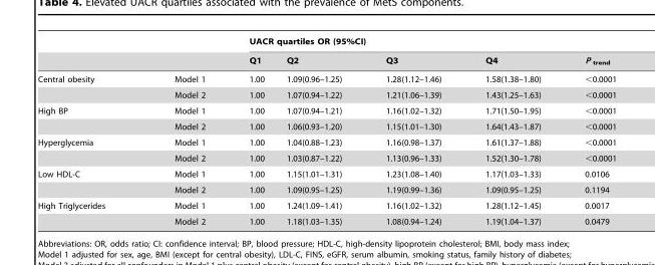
<table><thead><tr><td rowspan="2"></td><td rowspan="2"></td><td colspan="5">UACR quartiles OR (95%CI)</td></tr><tr><td>Q1</td><td>Q2</td><td>Q3</td><td>Q4</td><td>P <sub>trend</sub></td></tr></thead><tbody><tr><td rowspan="2">Central obesity</td><td>Model 1</td><td>1.00</td><td>1.09(0.96–1.25)</td><td>1.28(1.12–1.46)</td><td>1.58(1.38–1.80)</td><td>&lt;0.0001</td></tr><tr><td>Model 2</td><td>1.00</td><td>1.07(0.94–1.22)</td><td>1.21(1.06–1.39)</td><td>1.43(1.25–1.63)</td><td>&lt;0.0001</td></tr><tr><td rowspan="2">High BP</td><td>Model 1</td><td>1.00</td><td>1.07(0.94–1.21)</td><td>1.16(1.02–1.32)</td><td>1.71(1.50–1.95)</td><td>&lt;0.0001</td></tr><tr><td>Model 2</td><td>1.00</td><td>1.06(0.93–1.20)</td><td>1.15(1.01–1.30)</td><td>1.64(1.43–1.87)</td><td>&lt;0.0001</td></tr><tr><td rowspan="2">Hyperglycemia</td><td>Model 1</td><td>1.00</td><td>1.04(0.88–1.23)</td><td>1.16(0.98–1.37)</td><td>1.61(1.37–1.88)</td><td>&lt;0.0001</td></tr><tr><td>Model 2</td><td>1.00</td><td>1.03(0.87–1.22)</td><td>1.13(0.96–1.33)</td><td>1.52(1.30–1.78)</td><td>&lt;0.0001</td></tr><tr><td rowspan="2">Low HDL-C</td><td>Model 1</td><td>1.00</td><td>1.15(1.01–1.31)</td><td>1.23(1.08–1.40)</td><td>1.17(1.03–1.33)</td><td>0.0106</td></tr><tr><td>Model 2</td><td>1.00</td><td>1.09(0.95–1.25)</td><td>1.19(0.99–1.36)</td><td>1.09(0.95–1.25)</td><td>0.1194</td></tr><tr><td rowspan="2">High Triglycerides</td><td>Model 1</td><td>1.00</td><td>1.24(1.09–1.41)</td><td>1.16(1.02–1.32)</td><td>1.28(1.12–1.45)</td><td>0.0017</td></tr><tr><td>Model 2</td><td>1.00</td><td>1.18(1.03–1.35)</td><td>1.08(0.94–1.24)</td><td>1.19(1.04–1.37)</td><td>0.0479</td></tr></tbody></table>